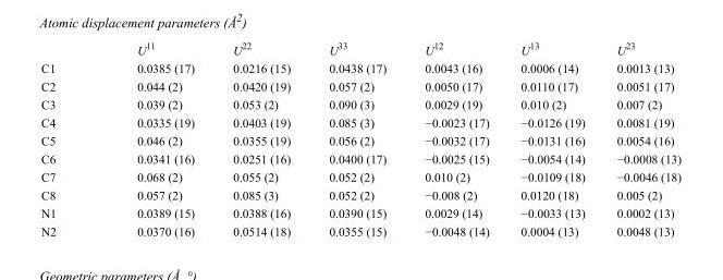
<table><thead><tr><td></td><td>U<sup>11</sup></td><td>U<sup>22</sup></td><td>U<sup>33</sup></td><td>U<sup>12</sup></td><td>U<sup>13</sup></td><td>U<sup>23</sup></td></tr></thead><tbody><tr><td>C1</td><td>0.0385 (17)</td><td>0.0216 (15)</td><td>0.0438 (17)</td><td>0.0043 (16)</td><td>0.0006 (14)</td><td>0.0013 (13)</td></tr><tr><td>C2</td><td>0.044 (2)</td><td>0.0420 (19)</td><td>0.057 (2)</td><td>0.0050 (17)</td><td>0.0110 (17)</td><td>0.0051 (17)</td></tr><tr><td>C3</td><td>0.039 (2)</td><td>0.053 (2)</td><td>0.090 (3)</td><td>0.0029 (19)</td><td>0.010 (2)</td><td>0.007 (2)</td></tr><tr><td>C4</td><td>0.0335 (19)</td><td>0.0403 (19)</td><td>0.085 (3)</td><td>−0.0023 (17)</td><td>−0.0126 (19)</td><td>0.0081 (19)</td></tr><tr><td>C5</td><td>0.046 (2)</td><td>0.0355 (19)</td><td>0.056 (2)</td><td>−0.0032 (17)</td><td>−0.0131 (16)</td><td>0.0054 (16)</td></tr><tr><td>C6</td><td>0.0341 (16)</td><td>0.0251 (16)</td><td>0.0400 (17)</td><td>−0.0025 (15)</td><td>−0.0054 (14)</td><td>−0.0008 (13)</td></tr><tr><td>C7</td><td>0.068 (2)</td><td>0.055 (2)</td><td>0.052 (2)</td><td>0.010 (2)</td><td>−0.0109 (18)</td><td>−0.0046 (18)</td></tr><tr><td>C8</td><td>0.057 (2)</td><td>0.085 (3)</td><td>0.052 (2)</td><td>−0.008 (2)</td><td>0.0120 (18)</td><td>0.005 (2)</td></tr><tr><td>N1</td><td>0.0389 (15)</td><td>0.0388 (16)</td><td>0.0390 (15)</td><td>0.0029 (14)</td><td>−0.0033 (13)</td><td>0.0002 (13)</td></tr><tr><td>N2</td><td>0.0370 (16)</td><td>0.0514 (18)</td><td>0.0355 (15)</td><td>−0.0048 (14)</td><td>0.0004 (13)</td><td>0.0048 (13)</td></tr></tbody></table>